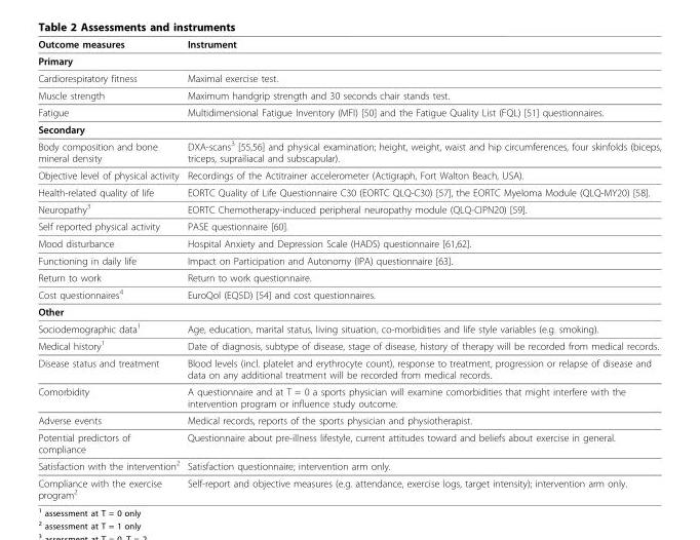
<table><thead><tr><td>Outcome measures</td><td>Instrument</td></tr></thead><tbody><tr><td colspan="2">Primary</td></tr><tr><td>Cardiorespiratory fitness</td><td>Maximal exercise test.</td></tr><tr><td>Muscle strength</td><td>Maximum handgrip strength and 30 seconds chair stands test.</td></tr><tr><td>Fatigue</td><td>Multidimensional Fatigue Inventory (MFI) [50] and the Fatigue Quality List (FQL) [51] questionnaires.</td></tr><tr><td colspan="2">Secondary</td></tr><tr><td>Body composition and bone mineral density</td><td>DXA-scans<sup>3</sup> [55,56] and physical examination; height, weight, waist and hip circumferences, four skinfolds (biceps, triceps, suprailiacal and subscapular).</td></tr><tr><td>Objective level of physical activity</td><td>Recordings of the Actitrainer accelerometer (Actigraph, Fort Walton Beach, USA).</td></tr><tr><td>Health-related quality of life</td><td>EORTC Quality of Life Questionnaire C30 (EORTC QLQ-C30) [57], the EORTC Myeloma Module (QLQ-MY20) [58].</td></tr><tr><td>Neuropathy<sup>3</sup></td><td>EORTC Chemotherapy-induced peripheral neuropathy module (QLQ-CIPN20) [59].</td></tr><tr><td>Self reported physical activity</td><td>PASE questionnaire [60].</td></tr><tr><td>Mood disturbance</td><td>Hospital Anxiety and Depression Scale (HADS) questionnaire [61,62].</td></tr><tr><td>Functioning in daily life</td><td>Impact on Participation and Autonomy (IPA) questionnaire [63].</td></tr><tr><td>Return to work</td><td>Return to work questionnaire.</td></tr><tr><td>Cost questionnaires<sup>4</sup></td><td>EuroQol (EQ5D) [54] and cost questionnaires.</td></tr><tr><td colspan="2">Other</td></tr><tr><td>Sociodemographic data<sup>1</sup></td><td>Age, education, marital status, living situation, co-morbidities and life style variables (e.g. smoking).</td></tr><tr><td>Medical history<sup>1</sup></td><td>Date of diagnosis, subtype of disease, stage of disease, history of therapy will be recorded from medical records.</td></tr><tr><td>Disease status and treatment</td><td>Blood levels (incl. platelet and erythrocyte count), response to treatment, progression or relapse of disease and data on any additional treatment will be recorded from medical records.</td></tr><tr><td>Comorbidity</td><td>A questionnaire and at T = 0 a sports physician will examine comorbidities that might interfere with the intervention program or influence study outcome.</td></tr><tr><td>Adverse events</td><td>Medical records, reports of the sports physician and physiotherapist.</td></tr><tr><td>Potential predictors of compliance</td><td>Questionnaire about pre-illness lifestyle, current attitudes toward and beliefs about exercise in general.</td></tr><tr><td>Satisfaction with the intervention<sup>2</sup></td><td>Satisfaction questionnaire; intervention arm only.</td></tr><tr><td>Compliance with the exercise program<sup>2</sup></td><td>Self-report and objective measures (e.g. attendance, exercise logs, target intensity); intervention arm only.</td></tr></tbody></table>